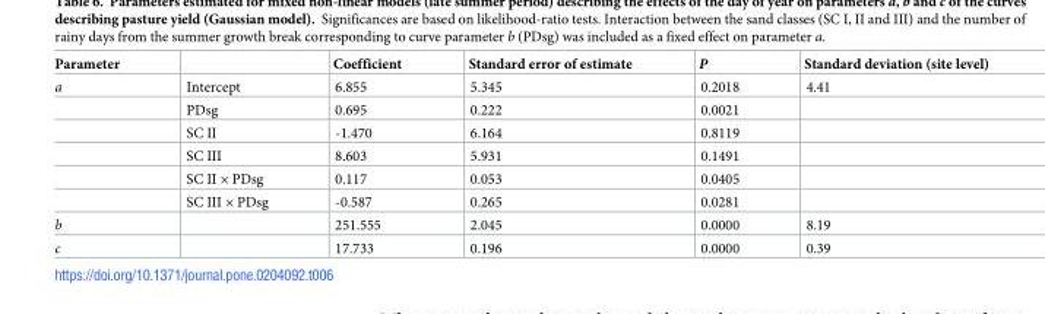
<table><thead><tr><td>Parameter</td><td></td><td>Coefficient</td><td>Standard error of estimate</td><td>P</td><td>Standard deviation (site level)</td></tr></thead><tbody><tr><td rowspan="6">a</td><td>Intercept</td><td>6.855</td><td>5.345</td><td>0.2018</td><td>4.41</td></tr><tr><td>PDsg</td><td>0.695</td><td>0.222</td><td>0.0021</td><td></td></tr><tr><td>SC II</td><td>-1.470</td><td>6.164</td><td>0.8119</td><td></td></tr><tr><td>SC III</td><td>8.603</td><td>5.931</td><td>0.1491</td><td></td></tr><tr><td>SC II × PDsg</td><td>0.117</td><td>0.053</td><td>0.0405</td><td></td></tr><tr><td>SC III × PDsg</td><td>-0.587</td><td>0.265</td><td>0.0281</td><td></td></tr><tr><td>b</td><td></td><td>251.555</td><td>2.045</td><td>0.0000</td><td>8.19</td></tr><tr><td>c</td><td></td><td>17.733</td><td>0.196</td><td>0.0000</td><td>0.39</td></tr></tbody></table>